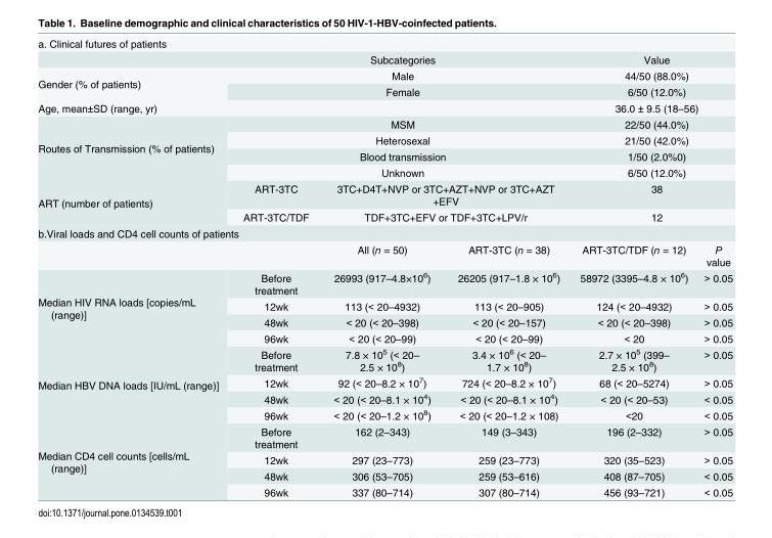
<table><tbody><tr><td colspan="6">a. Clinical futures of patients</td></tr><tr><td></td><td colspan="3">Subcategories</td><td colspan="2">Value</td></tr><tr><td rowspan="2">Gender (% of patients)</td><td colspan="3">Male</td><td colspan="2">44/50 (88.0%)</td></tr><tr><td colspan="3">Female</td><td colspan="2">6/50 (12.0%)</td></tr><tr><td>Age, mean±SD (range, yr)</td><td colspan="3"></td><td colspan="2">36.0 ± 9.5 (18–56)</td></tr><tr><td rowspan="4">Routes of Transmission (% of patients)</td><td colspan="3">MSM</td><td colspan="2">22/50 (44.0%)</td></tr><tr><td colspan="3">Heterosexal</td><td colspan="2">21/50 (42.0%)</td></tr><tr><td colspan="3">Blood transmission</td><td colspan="2">1/50 (2.0%0)</td></tr><tr><td colspan="3">Unknown</td><td colspan="2">6/50 (12.0%)</td></tr><tr><td rowspan="2">ART (number of patients)</td><td>ART-3TC</td><td colspan="2">3TC+D4T+NVP or 3TC+AZT+NVP or 3TC+AZT +EFV</td><td colspan="2">38</td></tr><tr><td>ART-3TC/TDF</td><td colspan="2">TDF+3TC+EFV or TDF+3TC+LPV/r</td><td colspan="2">12</td></tr><tr><td colspan="6">b.Viral loads and CD4 cell counts of patients</td></tr><tr><td></td><td></td><td>All (n = 50)</td><td>ART-3TC (n = 38)</td><td>ART-3TC/TDF (n = 12)</td><td>P value</td></tr><tr><td rowspan="4">Median HIV RNA loads [copies/mL (range)]</td><td>Before treatment</td><td>26993 (917–4.8×10<sup>6</sup>)</td><td>26205 (917–1.8 × 10<sup>6</sup>)</td><td>58972 (3395–4.8 × 10<sup>6</sup>)</td><td>&gt; 0.05</td></tr><tr><td>12wk</td><td>113 (&lt; 20–4932)</td><td>113 (&lt; 20–905)</td><td>124 (&lt; 20–4932)</td><td>&gt; 0.05</td></tr><tr><td>48wk</td><td>&lt; 20 (&lt; 20–398)</td><td>&lt; 20 (&lt; 20–157)</td><td>&lt; 20 (&lt; 20–398)</td><td>&gt; 0.05</td></tr><tr><td>96wk</td><td>&lt; 20 (&lt; 20–99)</td><td>&lt; 20 (&lt; 20–99)</td><td>&lt; 20</td><td>&gt; 0.05</td></tr><tr><td rowspan="4">Median HBV DNA loads [IU/mL (range)]</td><td>Before treatment</td><td>7.8 × 10<sup>5</sup> (&lt; 20– 2.5 × 10<sup>8</sup>)</td><td>3.4 × 10<sup>6</sup> (&lt; 20– 1.7 × 10<sup>8</sup>)</td><td>2.7 × 10<sup>5</sup> (399– 2.5 × 10<sup>8</sup>)</td><td>&gt; 0.05</td></tr><tr><td>12wk</td><td>92 (&lt; 20–8.2 × 10<sup>7</sup>)</td><td>724 (&lt; 20–8.2 × 10<sup>7</sup>)</td><td>68 (&lt; 20–5274)</td><td>&gt; 0.05</td></tr><tr><td>48wk</td><td>&lt; 20 (&lt; 20–8.1 × 10<sup>4</sup>)</td><td>&lt; 20 (&lt; 20–8.1 × 10<sup>4</sup>)</td><td>&lt; 20 (&lt; 20–53)</td><td>&lt; 0.05</td></tr><tr><td>96wk</td><td>&lt; 20 (&lt; 20–1.2 × 10<sup>8</sup>)</td><td>&lt; 20 (&lt; 20–1.2 × 108)</td><td>&lt;20</td><td>&lt; 0.05</td></tr><tr><td rowspan="4">Median CD4 cell counts [cells/mL (range)]</td><td>Before treatment</td><td>162 (2–343)</td><td>149 (3–343)</td><td>196 (2–332)</td><td>&gt; 0.05</td></tr><tr><td>12wk</td><td>297 (23–773)</td><td>259 (23–773)</td><td>320 (35–523)</td><td>&gt; 0.05</td></tr><tr><td>48wk</td><td>306 (53–705)</td><td>259 (53–616)</td><td>408 (87–705)</td><td>&lt; 0.05</td></tr><tr><td>96wk</td><td>337 (80–714)</td><td>307 (80–714)</td><td>456 (93–721)</td><td>&lt; 0.05</td></tr></tbody></table>